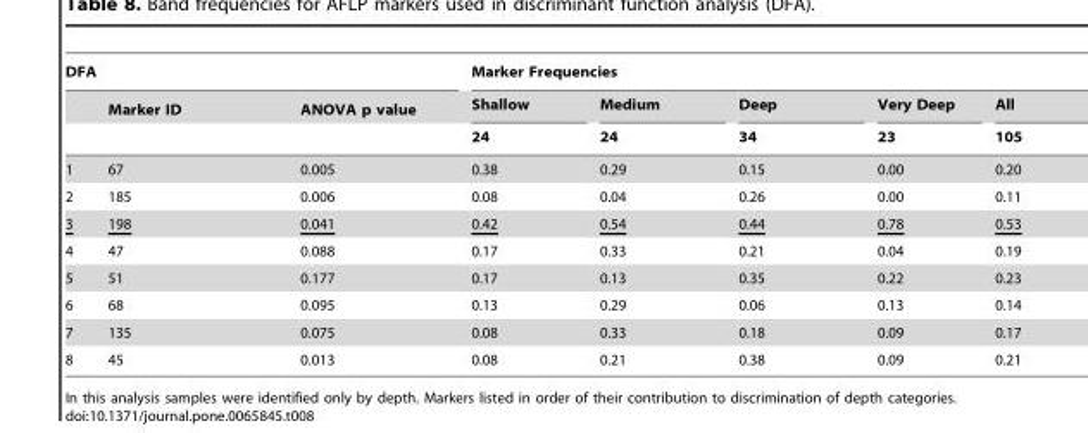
<table><thead><tr><td colspan="3">DFA</td><td colspan="5">Marker Frequencies</td></tr><tr><td rowspan="2"></td><td rowspan="2">Marker ID</td><td rowspan="2">ANOVA p value</td><td rowspan="2">Shallow 24</td><td rowspan="2">Medium 24</td><td rowspan="2">Deep 34</td><td rowspan="2">Very Deep 23</td><td rowspan="2">All 105</td></tr><tr></tr></thead><tbody><tr><td>1</td><td>67</td><td>0.005</td><td>0.38</td><td>0.29</td><td>0.15</td><td>0.00</td><td>0.20</td></tr><tr><td>2</td><td>185</td><td>0.006</td><td>0.08</td><td>0.04</td><td>0.26</td><td>0.00</td><td>0.11</td></tr><tr><td>3</td><td>198</td><td>0.041</td><td>0.42</td><td>0.54</td><td>0.44</td><td>0.78</td><td>0.53</td></tr><tr><td>4</td><td>47</td><td>0.088</td><td>0.17</td><td>0.33</td><td>0.21</td><td>0.04</td><td>0.19</td></tr><tr><td>5</td><td>51</td><td>0.177</td><td>0.17</td><td>0.13</td><td>0.35</td><td>0.22</td><td>0.23</td></tr><tr><td>6</td><td>68</td><td>0.095</td><td>0.13</td><td>0.29</td><td>0.06</td><td>0.13</td><td>0.14</td></tr><tr><td>7</td><td>135</td><td>0.075</td><td>0.08</td><td>0.33</td><td>0.18</td><td>0.09</td><td>0.17</td></tr><tr><td>8</td><td>45</td><td>0.013</td><td>0.08</td><td>0.21</td><td>0.38</td><td>0.09</td><td>0.21</td></tr></tbody></table>